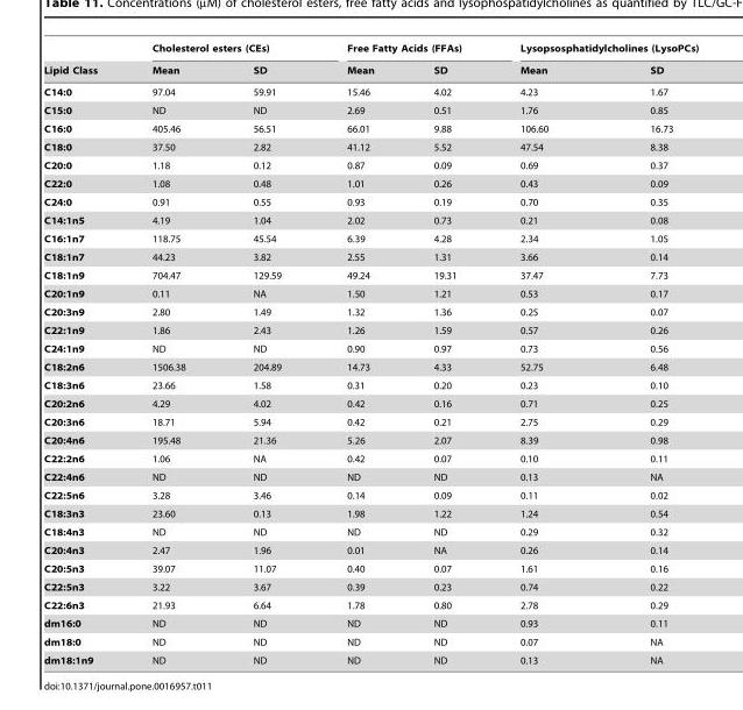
<table><thead><tr><td rowspan="2">Lipid Class</td><td colspan="2">Cholesterol esters (CEs)</td><td colspan="2">Free Fatty Acids (FFAs)</td><td colspan="2">Lysopsosphatidylcholines (LysoPCs)</td></tr><tr><td>Mean</td><td>SD</td><td>Mean</td><td>SD</td><td>Mean</td><td>SD</td></tr></thead><tbody><tr><td>C14:0</td><td>97.04</td><td>59.91</td><td>15.46</td><td>4.02</td><td>4.23</td><td>1.67</td></tr><tr><td>C15:0</td><td>ND</td><td>ND</td><td>2.69</td><td>0.51</td><td>1.76</td><td>0.85</td></tr><tr><td>C16:0</td><td>405.46</td><td>56.51</td><td>66.01</td><td>9.88</td><td>106.60</td><td>16.73</td></tr><tr><td>C18:0</td><td>37.50</td><td>2.82</td><td>41.12</td><td>5.52</td><td>47.54</td><td>8.38</td></tr><tr><td>C20:0</td><td>1.18</td><td>0.12</td><td>0.87</td><td>0.09</td><td>0.69</td><td>0.37</td></tr><tr><td>C22:0</td><td>1.08</td><td>0.48</td><td>1.01</td><td>0.26</td><td>0.43</td><td>0.09</td></tr><tr><td>C24:0</td><td>0.91</td><td>0.55</td><td>0.93</td><td>0.19</td><td>0.70</td><td>0.35</td></tr><tr><td>C14:1n5</td><td>4.19</td><td>1.04</td><td>2.02</td><td>0.73</td><td>0.21</td><td>0.08</td></tr><tr><td>C16:1n7</td><td>118.75</td><td>45.54</td><td>6.39</td><td>4.28</td><td>2.34</td><td>1.05</td></tr><tr><td>C18:1n7</td><td>44.23</td><td>3.82</td><td>2.55</td><td>1.31</td><td>3.66</td><td>0.14</td></tr><tr><td>C18:1n9</td><td>704.47</td><td>129.59</td><td>49.24</td><td>19.31</td><td>37.47</td><td>7.73</td></tr><tr><td>C20:1n9</td><td>0.11</td><td>NA</td><td>1.50</td><td>1.21</td><td>0.53</td><td>0.17</td></tr><tr><td>C20:3n9</td><td>2.80</td><td>1.49</td><td>1.32</td><td>1.36</td><td>0.25</td><td>0.07</td></tr><tr><td>C22:1n9</td><td>1.86</td><td>2.43</td><td>1.26</td><td>1.59</td><td>0.57</td><td>0.26</td></tr><tr><td>C24:1n9</td><td>ND</td><td>ND</td><td>0.90</td><td>0.97</td><td>0.73</td><td>0.56</td></tr><tr><td>C18:2n6</td><td>1506.38</td><td>204.89</td><td>14.73</td><td>4.33</td><td>52.75</td><td>6.48</td></tr><tr><td>C18:3n6</td><td>23.66</td><td>1.58</td><td>0.31</td><td>0.20</td><td>0.23</td><td>0.10</td></tr><tr><td>C20:2n6</td><td>4.29</td><td>4.02</td><td>0.42</td><td>0.16</td><td>0.71</td><td>0.25</td></tr><tr><td>C20:3n6</td><td>18.71</td><td>5.94</td><td>0.42</td><td>0.21</td><td>2.75</td><td>0.29</td></tr><tr><td>C20:4n6</td><td>195.48</td><td>21.36</td><td>5.26</td><td>2.07</td><td>8.39</td><td>0.98</td></tr><tr><td>C22:2n6</td><td>1.06</td><td>NA</td><td>0.42</td><td>0.07</td><td>0.10</td><td>0.11</td></tr><tr><td>C22:4n6</td><td>ND</td><td>ND</td><td>ND</td><td>ND</td><td>0.13</td><td>NA</td></tr><tr><td>C22:5n6</td><td>3.28</td><td>3.46</td><td>0.14</td><td>0.09</td><td>0.11</td><td>0.02</td></tr><tr><td>C18:3n3</td><td>23.60</td><td>0.13</td><td>1.98</td><td>1.22</td><td>1.24</td><td>0.54</td></tr><tr><td>C18:4n3</td><td>ND</td><td>ND</td><td>ND</td><td>ND</td><td>0.29</td><td>0.32</td></tr><tr><td>C20:4n3</td><td>2.47</td><td>1.96</td><td>0.01</td><td>NA</td><td>0.26</td><td>0.14</td></tr><tr><td>C20:5n3</td><td>39.07</td><td>11.07</td><td>0.40</td><td>0.07</td><td>1.61</td><td>0.16</td></tr><tr><td>C22:5n3</td><td>3.22</td><td>3.67</td><td>0.39</td><td>0.23</td><td>0.74</td><td>0.22</td></tr><tr><td>C22:6n3</td><td>21.93</td><td>6.64</td><td>1.78</td><td>0.80</td><td>2.78</td><td>0.29</td></tr><tr><td>dm16:0</td><td>ND</td><td>ND</td><td>ND</td><td>ND</td><td>0.93</td><td>0.11</td></tr><tr><td>dm18:0</td><td>ND</td><td>ND</td><td>ND</td><td>ND</td><td>0.07</td><td>NA</td></tr><tr><td>dm18:1n9</td><td>ND</td><td>ND</td><td>ND</td><td>ND</td><td>0.13</td><td>NA</td></tr></tbody></table>